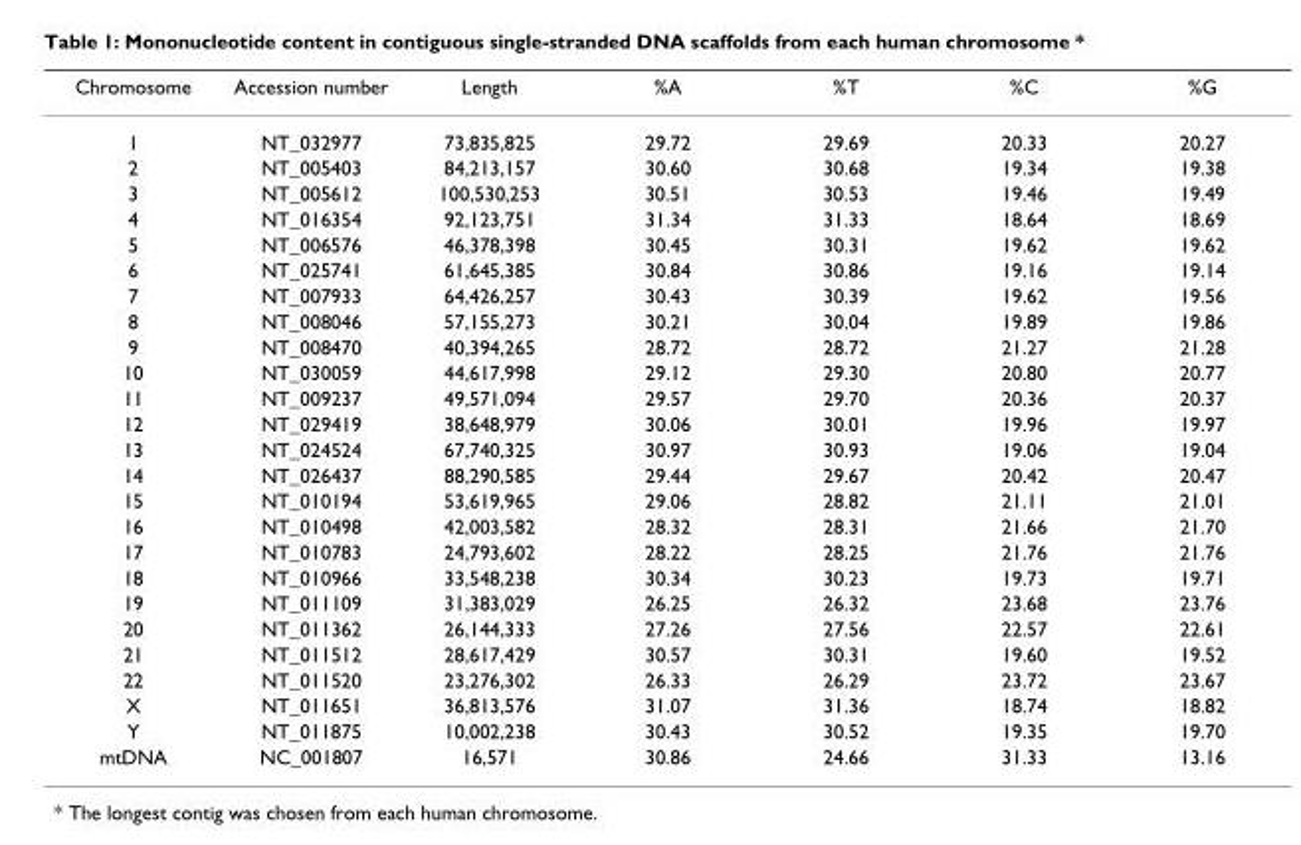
<table><thead><tr><td>Chromosome</td><td>Accession number</td><td>Length</td><td>%A</td><td>%T</td><td>%C</td><td>%G</td></tr></thead><tbody><tr><td>1</td><td>NT_032977</td><td>73,835,825</td><td>29.72</td><td>29.69</td><td>20.33</td><td>20.27</td></tr><tr><td>2</td><td>NT_005403</td><td>84,213,157</td><td>30.60</td><td>30.68</td><td>19.34</td><td>19.38</td></tr><tr><td>3</td><td>NT_005612</td><td>100,530,253</td><td>30.51</td><td>30.53</td><td>19.46</td><td>19.49</td></tr><tr><td>4</td><td>NT_016354</td><td>92,123,751</td><td>31.34</td><td>31.33</td><td>18.64</td><td>18.69</td></tr><tr><td>5</td><td>NT_006576</td><td>46,378,398</td><td>30.45</td><td>30.31</td><td>19.62</td><td>19.62</td></tr><tr><td>6</td><td>NT_025741</td><td>61,645,385</td><td>30.84</td><td>30.86</td><td>19.16</td><td>19.14</td></tr><tr><td>7</td><td>NT_007933</td><td>64,426,257</td><td>30.43</td><td>30.39</td><td>19.62</td><td>19.56</td></tr><tr><td>8</td><td>NT_008046</td><td>57,155,273</td><td>30.21</td><td>30.04</td><td>19.89</td><td>19.86</td></tr><tr><td>9</td><td>NT_008470</td><td>40,394,265</td><td>28.72</td><td>28.72</td><td>21.27</td><td>21.28</td></tr><tr><td>10</td><td>NT_030059</td><td>44,617,998</td><td>29.12</td><td>29.30</td><td>20.80</td><td>20.77</td></tr><tr><td>11</td><td>NT_009237</td><td>49,571,094</td><td>29.57</td><td>29.70</td><td>20.36</td><td>20.37</td></tr><tr><td>12</td><td>NT_029419</td><td>38,648,979</td><td>30.06</td><td>30.01</td><td>19.96</td><td>19.97</td></tr><tr><td>13</td><td>NT_024524</td><td>67,740,325</td><td>30.97</td><td>30.93</td><td>19.06</td><td>19.04</td></tr><tr><td>14</td><td>NT_026437</td><td>88,290,585</td><td>29.44</td><td>29.67</td><td>20.42</td><td>20.47</td></tr><tr><td>15</td><td>NT_010194</td><td>53,619,965</td><td>29.06</td><td>28.82</td><td>21.11</td><td>21.01</td></tr><tr><td>16</td><td>NT_010498</td><td>42,003,582</td><td>28.32</td><td>28.31</td><td>21.66</td><td>21.70</td></tr><tr><td>17</td><td>NT_010783</td><td>24,793,602</td><td>28.22</td><td>28.25</td><td>21.76</td><td>21.76</td></tr><tr><td>18</td><td>NT_010966</td><td>33,548,238</td><td>30.34</td><td>30.23</td><td>19.73</td><td>19.71</td></tr><tr><td>19</td><td>NT_011109</td><td>31,383,029</td><td>26.25</td><td>26.32</td><td>23.68</td><td>23.76</td></tr><tr><td>20</td><td>NT_011362</td><td>26,144,333</td><td>27.26</td><td>27.56</td><td>22.57</td><td>22.61</td></tr><tr><td>21</td><td>NT_011512</td><td>28,617,429</td><td>30.57</td><td>30.31</td><td>19.60</td><td>19.52</td></tr><tr><td>22</td><td>NT_011520</td><td>23,276,302</td><td>26.33</td><td>26.29</td><td>23.72</td><td>23.67</td></tr><tr><td>X</td><td>NT_011651</td><td>36,813,576</td><td>31.07</td><td>31.36</td><td>18.74</td><td>18.82</td></tr><tr><td>Y</td><td>NT_011875</td><td>10,002,238</td><td>30.43</td><td>30.52</td><td>19.35</td><td>19.70</td></tr><tr><td>mtDNA</td><td>NC_001807</td><td>16,571</td><td>30.86</td><td>24.66</td><td>31.33</td><td>13.16</td></tr></tbody></table>